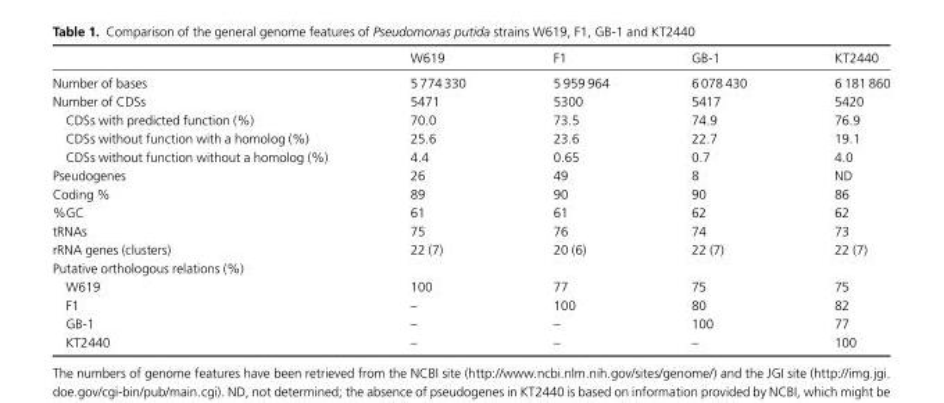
<table><thead><tr><td></td><td>W619</td><td>F1</td><td>GB-1</td><td>KT2440</td></tr></thead><tbody><tr><td>Number of bases</td><td>5 774 330</td><td>5 959 964</td><td>6 078 430</td><td>6 181 860</td></tr><tr><td>Number of CDSs</td><td>5471</td><td>5300</td><td>5417</td><td>5420</td></tr><tr><td>CDSs with predicted function (%)</td><td>70.0</td><td>73.5</td><td>74.9</td><td>76.9</td></tr><tr><td>CDSs without function with a homolog (%)</td><td>25.6</td><td>23.6</td><td>22.7</td><td>19.1</td></tr><tr><td>CDSs without function without a homolog (%)</td><td>4.4</td><td>0.65</td><td>0.7</td><td>4.0</td></tr><tr><td>Pseudogenes</td><td>26</td><td>49</td><td>8</td><td>ND</td></tr><tr><td>Coding %</td><td>89</td><td>90</td><td>90</td><td>86</td></tr><tr><td>%GC</td><td>61</td><td>61</td><td>62</td><td>62</td></tr><tr><td>tRNAs</td><td>75</td><td>76</td><td>74</td><td>73</td></tr><tr><td>rRNA genes (clusters)</td><td>22 (7)</td><td>20 (6)</td><td>22 (7)</td><td>22 (7)</td></tr><tr><td colspan="5">Putative orthologous relations (%)</td></tr><tr><td>W619</td><td>100</td><td>77</td><td>75</td><td>75</td></tr><tr><td>F1</td><td>–</td><td>100</td><td>80</td><td>82</td></tr><tr><td>GB-1</td><td>–</td><td>–</td><td>100</td><td>77</td></tr><tr><td>KT2440</td><td>–</td><td>–</td><td>–</td><td>100</td></tr></tbody></table>